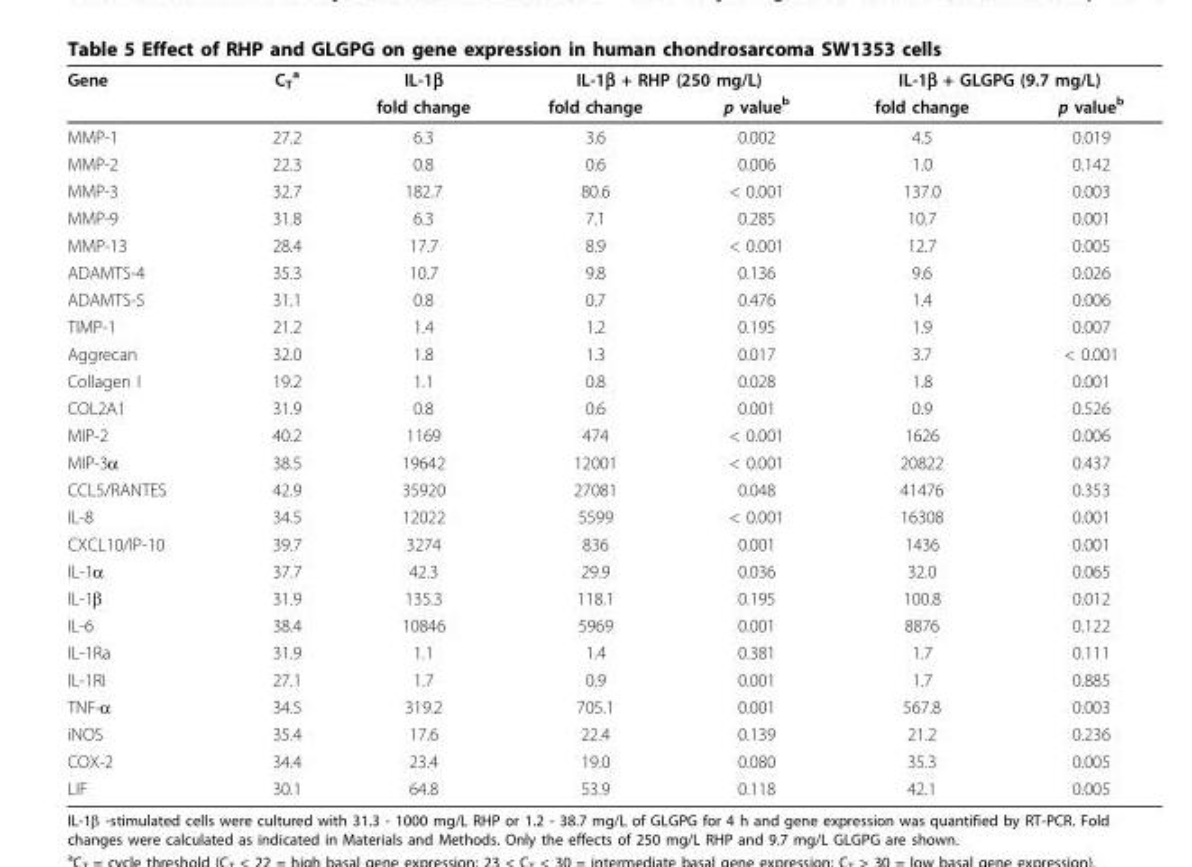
<table><thead><tr><td rowspan="2">Gene</td><td rowspan="2">C<sub>T</sub> <sup>a</sup></td><td rowspan="2">IL-1β fold change</td><td colspan="2">IL-1β + RHP (250 mg/L)</td><td colspan="2">IL-1β + GLGPG (9.7 mg/L)</td></tr><tr><td>fold change</td><td>p value<sup>b</sup></td><td>fold change</td><td>p value<sup>b</sup></td></tr></thead><tbody><tr><td>MMP-1</td><td>27.2</td><td>6.3</td><td>3.6</td><td>0.002</td><td>4.5</td><td>0.019</td></tr><tr><td>MMP-2</td><td>22.3</td><td>0.8</td><td>0.6</td><td>0.006</td><td>1.0</td><td>0.142</td></tr><tr><td>MMP-3</td><td>32.7</td><td>182.7</td><td>80.6</td><td>&lt; 0.001</td><td>137.0</td><td>0.003</td></tr><tr><td>MMP-9</td><td>31.8</td><td>6.3</td><td>7.1</td><td>0.285</td><td>10.7</td><td>0.001</td></tr><tr><td>MMP-13</td><td>28.4</td><td>17.7</td><td>8.9</td><td>&lt; 0.001</td><td>12.7</td><td>0.005</td></tr><tr><td>ADAMTS-4</td><td>35.3</td><td>10.7</td><td>9.8</td><td>0.136</td><td>9.6</td><td>0.026</td></tr><tr><td>ADAMTS-5</td><td>31.1</td><td>0.8</td><td>0.7</td><td>0.476</td><td>1.4</td><td>0.006</td></tr><tr><td>TIMP-1</td><td>21.2</td><td>1.4</td><td>1.2</td><td>0.195</td><td>1.9</td><td>0.007</td></tr><tr><td>Aggrecan</td><td>32.0</td><td>1.8</td><td>1.3</td><td>0.017</td><td>3.7</td><td>&lt; 0.001</td></tr><tr><td>Collagen I</td><td>19.2</td><td>1.1</td><td>0.8</td><td>0.028</td><td>1.8</td><td>0.001</td></tr><tr><td>COL2A1</td><td>31.9</td><td>0.8</td><td>0.6</td><td>0.001</td><td>0.9</td><td>0.526</td></tr><tr><td>MIP-2</td><td>40.2</td><td>1169</td><td>474</td><td>&lt; 0.001</td><td>1626</td><td>0.006</td></tr><tr><td>MIP-3α</td><td>38.5</td><td>19642</td><td>12001</td><td>&lt; 0.001</td><td>20822</td><td>0.437</td></tr><tr><td>CCL5/RANTES</td><td>42.9</td><td>35920</td><td>27081</td><td>0.048</td><td>41476</td><td>0.353</td></tr><tr><td>IL-8</td><td>34.5</td><td>12022</td><td>5599</td><td>&lt; 0.001</td><td>16308</td><td>0.001</td></tr><tr><td>CXCL10/IP-10</td><td>39.7</td><td>3274</td><td>836</td><td>0.001</td><td>1436</td><td>0.001</td></tr><tr><td>IL-1α</td><td>37.7</td><td>42.3</td><td>29.9</td><td>0.036</td><td>32.0</td><td>0.065</td></tr><tr><td>IL-1β</td><td>31.9</td><td>135.3</td><td>118.1</td><td>0.195</td><td>100.8</td><td>0.012</td></tr><tr><td>IL-6</td><td>38.4</td><td>10846</td><td>5969</td><td>0.001</td><td>8876</td><td>0.122</td></tr><tr><td>IL-1Ra</td><td>31.9</td><td>1.1</td><td>1.4</td><td>0.381</td><td>1.7</td><td>0.111</td></tr><tr><td>IL-1RI</td><td>27.1</td><td>1.7</td><td>0.9</td><td>0.001</td><td>1.7</td><td>0.885</td></tr><tr><td>TNF-α</td><td>34.5</td><td>319.2</td><td>705.1</td><td>0.001</td><td>567.8</td><td>0.003</td></tr><tr><td>iNOS</td><td>35.4</td><td>17.6</td><td>22.4</td><td>0.139</td><td>21.2</td><td>0.236</td></tr><tr><td>COX-2</td><td>34.4</td><td>23.4</td><td>19.0</td><td>0.080</td><td>35.3</td><td>0.005</td></tr><tr><td>LIF</td><td>30.1</td><td>64.8</td><td>53.9</td><td>0.118</td><td>42.1</td><td>0.005</td></tr></tbody></table>